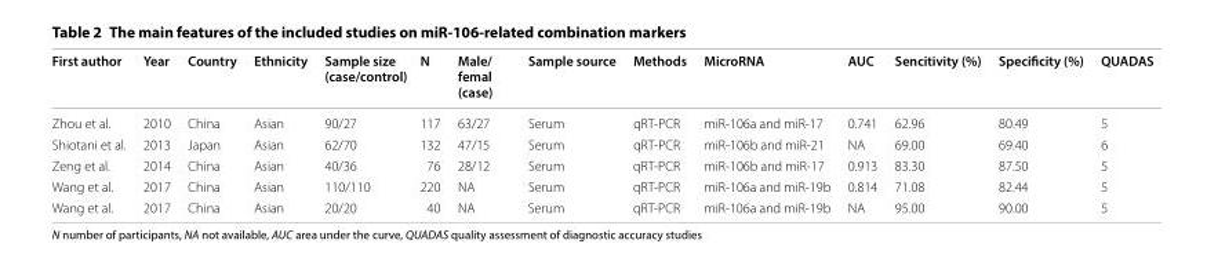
<table><thead><tr><td>First author</td><td>Year</td><td>Country</td><td>Ethnicity</td><td>Sample size (case/control)</td><td>N</td><td>Male/ femal (case)</td><td>Sample source</td><td>Methods</td><td>MicroRNA</td><td>AUC</td><td>Sencitivity (%)</td><td>Specificity (%)</td><td>QUADAS</td></tr></thead><tbody><tr><td>Zhou et al.</td><td>2010</td><td>China</td><td>Asian</td><td>90/27</td><td>117</td><td>63/27</td><td>Serum</td><td>qRT-PCR</td><td>miR-106a and miR-17</td><td>0.741</td><td>62.96</td><td>80.49</td><td>5</td></tr><tr><td>Shiotani et al.</td><td>2013</td><td>Japan</td><td>Asian</td><td>62/70</td><td>132</td><td>47/15</td><td>Serum</td><td>qRT-PCR</td><td>miR-106b and miR-21</td><td>NA</td><td>69.00</td><td>69.40</td><td>6</td></tr><tr><td>Zeng et al.</td><td>2014</td><td>China</td><td>Asian</td><td>40/36</td><td>76</td><td>28/12</td><td>Serum</td><td>qRT-PCR</td><td>miR-106b and miR-17</td><td>0.913</td><td>83.30</td><td>87.50</td><td>5</td></tr><tr><td>Wang et al.</td><td>2017</td><td>China</td><td>Asian</td><td>110/110</td><td>220</td><td>NA</td><td>Serum</td><td>qRT-PCR</td><td>miR-106a and miR-19b</td><td>0.814</td><td>71.08</td><td>82.44</td><td>5</td></tr><tr><td>Wang et al.</td><td>2017</td><td>China</td><td>Asian</td><td>20/20</td><td>40</td><td>NA</td><td>Serum</td><td>qRT-PCR</td><td>miR-106a and miR-19b</td><td>NA</td><td>95.00</td><td>90.00</td><td>5</td></tr></tbody></table>